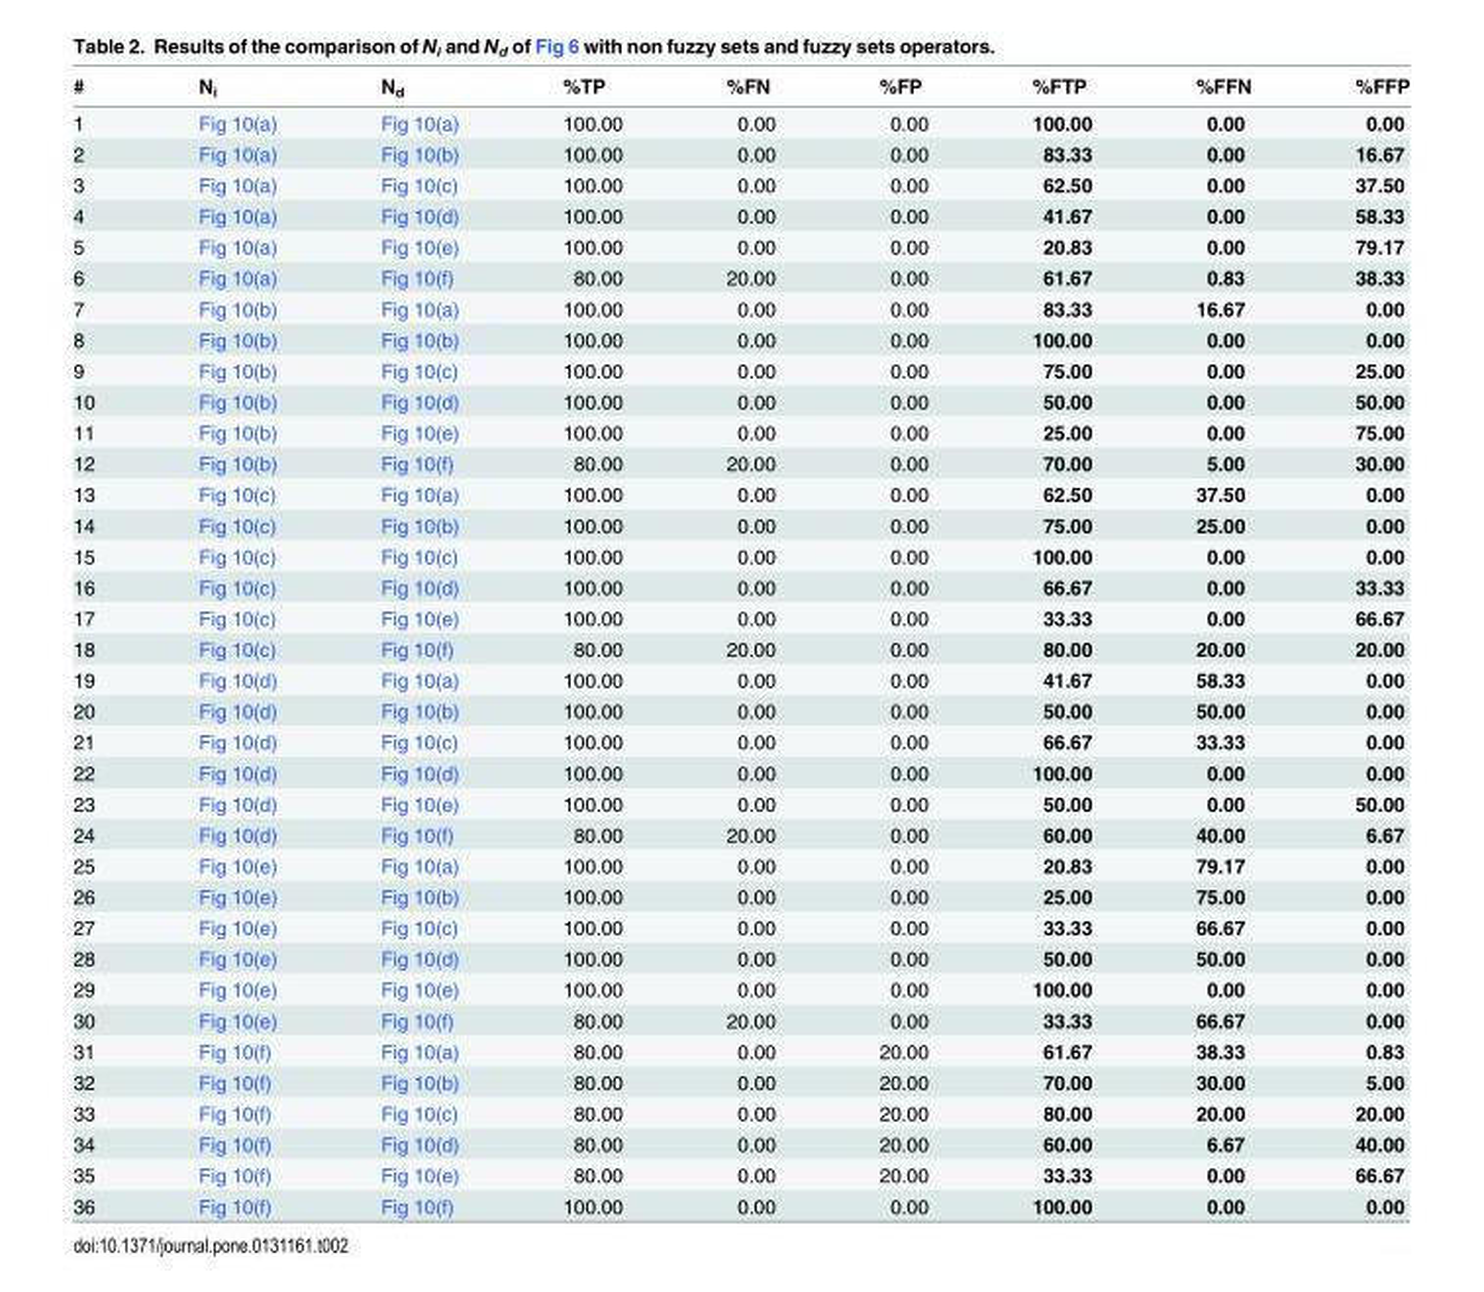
<table><thead><tr><td>#</td><td>N<sub>i</sub></td><td>N<sub>d</sub></td><td>%TP</td><td>%FN</td><td>%FP</td><td>%FTP</td><td>%FFN</td><td>%FFP</td></tr></thead><tbody><tr><td>1</td><td>Fig 10(a)</td><td>Fig 10(a)</td><td>100.00</td><td>0.00</td><td>0.00</td><td>100.00</td><td>0.00</td><td>0.00</td></tr><tr><td>2</td><td>Fig 10(a)</td><td>Fig 10(b)</td><td>100.00</td><td>0.00</td><td>0.00</td><td>83.33</td><td>0.00</td><td>16.67</td></tr><tr><td>3</td><td>Fig 10(a)</td><td>Fig 10(c)</td><td>100.00</td><td>0.00</td><td>0.00</td><td>62.50</td><td>0.00</td><td>37.50</td></tr><tr><td>4</td><td>Fig 10(a)</td><td>Fig 10(d)</td><td>100.00</td><td>0.00</td><td>0.00</td><td>41.67</td><td>0.00</td><td>58.33</td></tr><tr><td>5</td><td>Fig 10(a)</td><td>Fig 10(e)</td><td>100.00</td><td>0.00</td><td>0.00</td><td>20.83</td><td>0.00</td><td>79.17</td></tr><tr><td>6</td><td>Fig 10(a)</td><td>Fig 10(f)</td><td>80.00</td><td>20.00</td><td>0.00</td><td>61.67</td><td>0.83</td><td>38.33</td></tr><tr><td>7</td><td>Fig 10(b)</td><td>Fig 10(a)</td><td>100.00</td><td>0.00</td><td>0.00</td><td>83.33</td><td>16.67</td><td>0.00</td></tr><tr><td>8</td><td>Fig 10(b)</td><td>Fig 10(b)</td><td>100.00</td><td>0.00</td><td>0.00</td><td>100.00</td><td>0.00</td><td>0.00</td></tr><tr><td>9</td><td>Fig 10(b)</td><td>Fig 10(c)</td><td>100.00</td><td>0.00</td><td>0.00</td><td>75.00</td><td>0.00</td><td>25.00</td></tr><tr><td>10</td><td>Fig 10(b)</td><td>Fig 10(d)</td><td>100.00</td><td>0.00</td><td>0.00</td><td>50.00</td><td>0.00</td><td>50.00</td></tr><tr><td>11</td><td>Fig 10(b)</td><td>Fig 10(e)</td><td>100.00</td><td>0.00</td><td>0.00</td><td>25.00</td><td>0.00</td><td>75.00</td></tr><tr><td>12</td><td>Fig 10(b)</td><td>Fig 10(f)</td><td>80.00</td><td>20.00</td><td>0.00</td><td>70.00</td><td>5.00</td><td>30.00</td></tr><tr><td>13</td><td>Fig 10(c)</td><td>Fig 10(a)</td><td>100.00</td><td>0.00</td><td>0.00</td><td>62.50</td><td>37.50</td><td>0.00</td></tr><tr><td>14</td><td>Fig 10(c)</td><td>Fig 10(b)</td><td>100.00</td><td>0.00</td><td>0.00</td><td>75.00</td><td>25.00</td><td>0.00</td></tr><tr><td>15</td><td>Fig 10(c)</td><td>Fig 10(c)</td><td>100.00</td><td>0.00</td><td>0.00</td><td>100.00</td><td>0.00</td><td>0.00</td></tr><tr><td>16</td><td>Fig 10(c)</td><td>Fig 10(d)</td><td>100.00</td><td>0.00</td><td>0.00</td><td>66.67</td><td>0.00</td><td>33.33</td></tr><tr><td>17</td><td>Fig 10(c)</td><td>Fig 10(e)</td><td>100.00</td><td>0.00</td><td>0.00</td><td>33.33</td><td>0.00</td><td>66.67</td></tr><tr><td>18</td><td>Fig 10(c)</td><td>Fig 10(f)</td><td>80.00</td><td>20.00</td><td>0.00</td><td>80.00</td><td>20.00</td><td>20.00</td></tr><tr><td>19</td><td>Fig 10(d)</td><td>Fig 10(a)</td><td>100.00</td><td>0.00</td><td>0.00</td><td>41.67</td><td>58.33</td><td>0.00</td></tr><tr><td>20</td><td>Fig 10(d)</td><td>Fig 10(b)</td><td>100.00</td><td>0.00</td><td>0.00</td><td>50.00</td><td>50.00</td><td>0.00</td></tr><tr><td>21</td><td>Fig 10(d)</td><td>Fig 10(c)</td><td>100.00</td><td>0.00</td><td>0.00</td><td>66.67</td><td>33.33</td><td>0.00</td></tr><tr><td>22</td><td>Fig 10(d)</td><td>Fig 10(d)</td><td>100.00</td><td>0.00</td><td>0.00</td><td>100.00</td><td>0.00</td><td>0.00</td></tr><tr><td>23</td><td>Fig 10(d)</td><td>Fig 10(e)</td><td>100.00</td><td>0.00</td><td>0.00</td><td>50.00</td><td>0.00</td><td>50.00</td></tr><tr><td>24</td><td>Fig 10(d)</td><td>Fig 10(f)</td><td>80.00</td><td>20.00</td><td>0.00</td><td>60.00</td><td>40.00</td><td>6.67</td></tr><tr><td>25</td><td>Fig 10(e)</td><td>Fig 10(a)</td><td>100.00</td><td>0.00</td><td>0.00</td><td>20.83</td><td>79.17</td><td>0.00</td></tr><tr><td>26</td><td>Fig 10(e)</td><td>Fig 10(b)</td><td>100.00</td><td>0.00</td><td>0.00</td><td>25.00</td><td>75.00</td><td>0.00</td></tr><tr><td>27</td><td>Fig 10(e)</td><td>Fig 10(c)</td><td>100.00</td><td>0.00</td><td>0.00</td><td>33.33</td><td>66.67</td><td>0.00</td></tr><tr><td>28</td><td>Fig 10(e)</td><td>Fig 10(d)</td><td>100.00</td><td>0.00</td><td>0.00</td><td>50.00</td><td>50.00</td><td>0.00</td></tr><tr><td>29</td><td>Fig 10(e)</td><td>Fig 10(e)</td><td>100.00</td><td>0.00</td><td>0.00</td><td>100.00</td><td>0.00</td><td>0.00</td></tr><tr><td>30</td><td>Fig 10(e)</td><td>Fig 10(f)</td><td>80.00</td><td>20.00</td><td>0.00</td><td>33.33</td><td>66.67</td><td>0.00</td></tr><tr><td>31</td><td>Fig 10(f)</td><td>Fig 10(a)</td><td>80.00</td><td>0.00</td><td>20.00</td><td>61.67</td><td>38.33</td><td>0.83</td></tr><tr><td>32</td><td>Fig 10(f)</td><td>Fig 10(b)</td><td>80.00</td><td>0.00</td><td>20.00</td><td>70.00</td><td>30.00</td><td>5.00</td></tr><tr><td>33</td><td>Fig 10(f)</td><td>Fig 10(c)</td><td>80.00</td><td>0.00</td><td>20.00</td><td>80.00</td><td>20.00</td><td>20.00</td></tr><tr><td>34</td><td>Fig 10(f)</td><td>Fig 10(d)</td><td>80.00</td><td>0.00</td><td>20.00</td><td>60.00</td><td>6.67</td><td>40.00</td></tr><tr><td>35</td><td>Fig 10(f)</td><td>Fig 10(e)</td><td>80.00</td><td>0.00</td><td>20.00</td><td>33.33</td><td>0.00</td><td>66.67</td></tr><tr><td>36</td><td>Fig 10(f)</td><td>Fig 10(f)</td><td>100.00</td><td>0.00</td><td>0.00</td><td>100.00</td><td>0.00</td><td>0.00</td></tr></tbody></table>